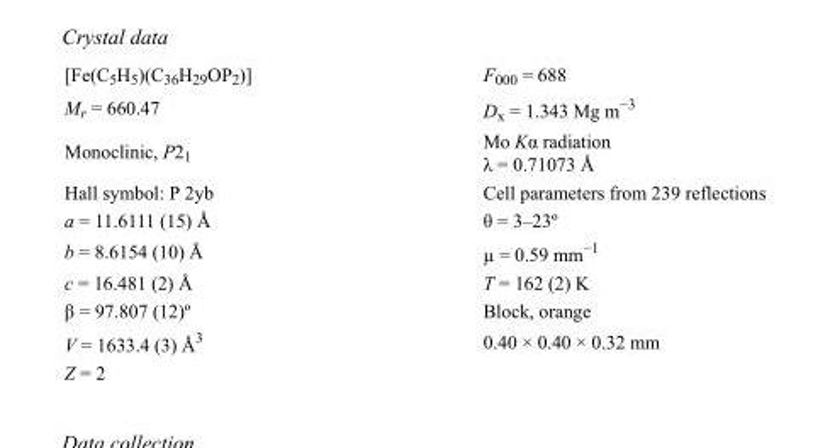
<table><tbody><tr><td>[Fe(C<sub>5</sub>H<sub>5</sub>)(C<sub>36</sub>H<sub>29</sub>OP<sub>2</sub>)]</td><td>F<sub>000</sub> = 688</td></tr><tr><td>M<sub>r</sub> = 660.47</td><td>D<sub>x</sub> = 1.343 Mg m<sup>−3</sup></td></tr><tr><td>Monoclinic, P2<sub>1</sub></td><td>Mo Kα radiation λ = 0.71073 Å</td></tr><tr><td>Hall symbol: P 2yb</td><td>Cell parameters from 239 reflections</td></tr><tr><td>a = 11.6111 (15) Å</td><td>θ = 3–23º</td></tr><tr><td>b = 8.6154 (10) Å</td><td>µ = 0.59 mm<sup>−1</sup></td></tr><tr><td>c = 16.481 (2) Å</td><td>T = 162 (2) K</td></tr><tr><td>β = 97.807 (12)º</td><td>Block, orange</td></tr><tr><td>V = 1633.4 (3) Å<sup>3</sup></td><td>0.40 × 0.40 × 0.32 mm</td></tr><tr><td>Z = 2</td><td></td></tr></tbody></table>